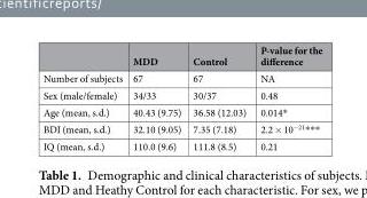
<table><thead><tr><td></td><td>MDD</td><td>Control</td><td>P-value for the difference</td></tr></thead><tbody><tr><td>Number of subjects</td><td>67</td><td>67</td><td>NA</td></tr><tr><td>Sex (male/female)</td><td>34/33</td><td>30/37</td><td>0.48</td></tr><tr><td>Age (mean, s.d.)</td><td>40.43 (9.75)</td><td>36.58 (12.03)</td><td>0.014*</td></tr><tr><td>BDI (mean, s.d.)</td><td>32.10 (9.05)</td><td>7.35 (7.18)</td><td>2.2 × 10<sup>−21</sup>***</td></tr><tr><td>IQ (mean, s.d.)</td><td>110.0 (9.6)</td><td>111.8 (8.5)</td><td>0.21</td></tr></tbody></table>